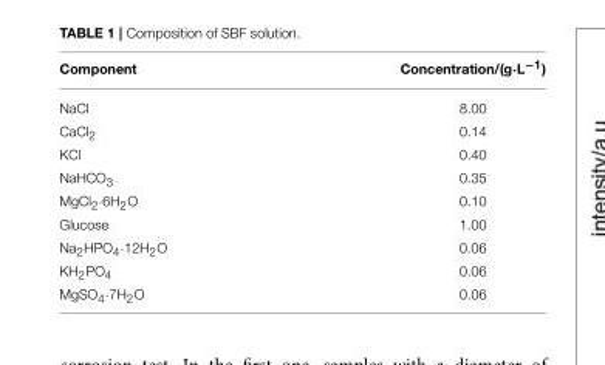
<table><thead><tr><td>Component</td><td>Concentration/(g·L<sup>−1</sup>)</td></tr></thead><tbody><tr><td>NaCl</td><td>8.00</td></tr><tr><td>CaCl<sub>2</sub></td><td>0.14</td></tr><tr><td>KCl</td><td>0.40</td></tr><tr><td>NaHCO<sub>3</sub></td><td>0.35</td></tr><tr><td>MgCl<sub>2</sub>·6H<sub>2</sub>O</td><td>0.10</td></tr><tr><td>Glucose</td><td>1.00</td></tr><tr><td>Na<sub>2</sub>HPO<sub>4</sub>·12H<sub>2</sub>O</td><td>0.06</td></tr><tr><td>KH<sub>2</sub>PO<sub>4</sub></td><td>0.06</td></tr><tr><td>MgSO<sub>4</sub>·7H<sub>2</sub>O</td><td>0.06</td></tr></tbody></table>